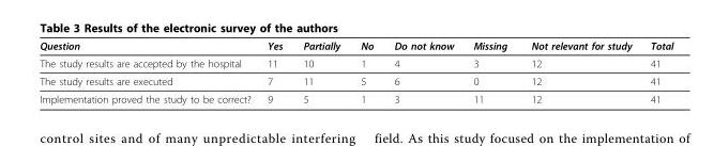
<table><thead><tr><td>Question</td><td>Yes</td><td>Partially</td><td>No</td><td>Do not know</td><td>Missing</td><td>Not relevant for study</td><td>Total</td></tr></thead><tbody><tr><td>The study results are accepted by the hospital</td><td>11</td><td>10</td><td>1</td><td>4</td><td>3</td><td>12</td><td>41</td></tr><tr><td>The study results are executed</td><td>7</td><td>11</td><td>5</td><td>6</td><td>0</td><td>12</td><td>41</td></tr><tr><td>Implementation proved the study to be correct?</td><td>9</td><td>5</td><td>1</td><td>3</td><td>11</td><td>12</td><td>41</td></tr></tbody></table>